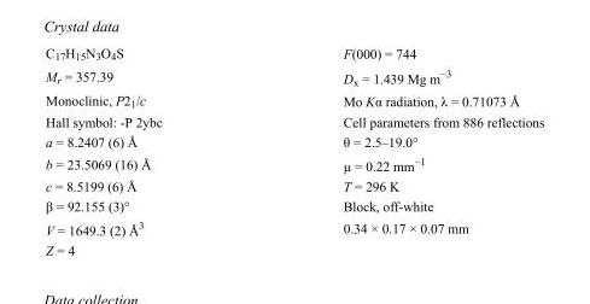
<table><tbody><tr><td>C<sub>17</sub>H<sub>15</sub>N<sub>3</sub>O<sub>4</sub>S</td><td>F(000) = 744</td></tr><tr><td>M<sub>r</sub> = 357.39</td><td>D<sub>x</sub> = 1.439 Mg m<sup>−3</sup></td></tr><tr><td>Monoclinic, P2<sub>1</sub>/c</td><td>Mo Kα radiation, λ = 0.71073 Å</td></tr><tr><td>Hall symbol: -P 2ybc</td><td>Cell parameters from 886 reflections</td></tr><tr><td>a = 8.2407 (6) Å</td><td>θ = 2.5–19.0°</td></tr><tr><td>b = 23.5069 (16) Å</td><td>µ = 0.22 mm<sup>−1</sup></td></tr><tr><td>c = 8.5199 (6) Å</td><td>T = 296 K</td></tr><tr><td>β = 92.155 (3)°</td><td>Block, off-white</td></tr><tr><td>V = 1649.3 (2) Å<sup>3</sup></td><td>0.34 × 0.17 × 0.07 mm</td></tr><tr><td>Z = 4</td><td></td></tr></tbody></table>